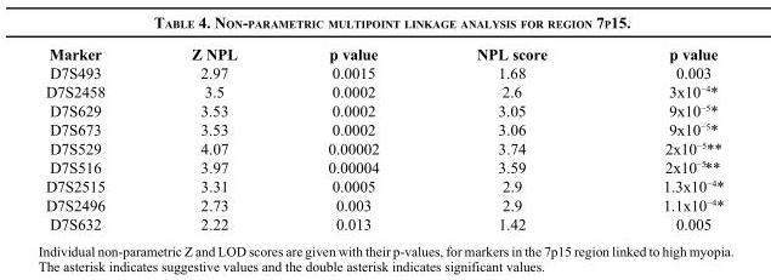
<table><thead><tr><td>Marker</td><td>Z NPL</td><td>p value</td><td>NPL score</td><td>p value</td></tr></thead><tbody><tr><td>D7S493</td><td>2.97</td><td>0.0015</td><td>1.68</td><td>0.003</td></tr><tr><td>D7S2458</td><td>3.5</td><td>0.0002</td><td>2.6</td><td>3x10<sup>−4</sup>*</td></tr><tr><td>D7S629</td><td>3.53</td><td>0.0002</td><td>3.05</td><td>9x10<sup>−5</sup>*</td></tr><tr><td>D7S673</td><td>3.53</td><td>0.0002</td><td>3.06</td><td>9x10<sup>−5</sup>*</td></tr><tr><td>D7S529</td><td>4.07</td><td>0.00002</td><td>3.74</td><td>2x10<sup>−5</sup>**</td></tr><tr><td>D7S516</td><td>3.97</td><td>0.00004</td><td>3.59</td><td>2x10 ** −5</td></tr><tr><td>D7S2515</td><td>3.31</td><td>0.0005</td><td>2.9</td><td>1.3x10<sup>−4</sup>*</td></tr><tr><td>D7S2496</td><td>2.73</td><td>0.003</td><td>2.9</td><td>1.1x10<sup>−4</sup>*</td></tr><tr><td>D7S632</td><td>2.22</td><td>0.013</td><td>1.42</td><td>0.005</td></tr></tbody></table>